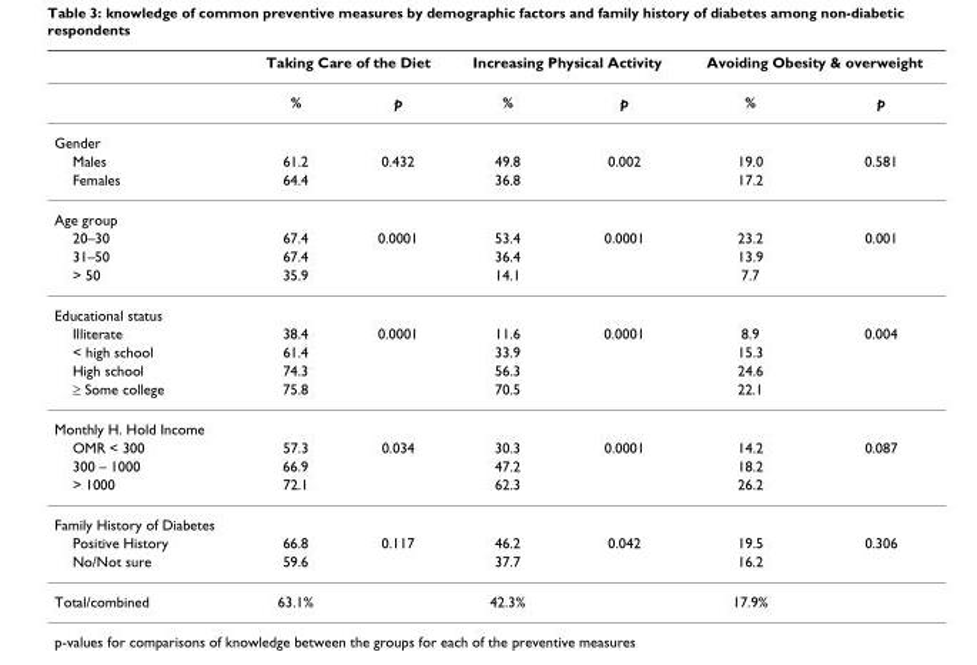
<table><thead><tr><td rowspan="2"></td><td colspan="2">Taking Care of the Diet</td><td colspan="2">Increasing Physical Activity</td><td colspan="2">Avoiding Obesity &amp; overweight</td></tr><tr><td>%</td><td>p</td><td>%</td><td>p</td><td>%</td><td>p</td></tr></thead><tbody><tr><td colspan="7">Gender</td></tr><tr><td>Males</td><td>61.2</td><td>0.432</td><td>49.8</td><td>0.002</td><td>19.0</td><td>0.581</td></tr><tr><td>Females</td><td>64.4</td><td></td><td>36.8</td><td></td><td>17.2</td><td></td></tr><tr><td colspan="7">Age group</td></tr><tr><td>20–30</td><td>67.4</td><td>0.0001</td><td>53.4</td><td>0.0001</td><td>23.2</td><td>0.001</td></tr><tr><td>31–50</td><td>67.4</td><td></td><td>36.4</td><td></td><td>13.9</td><td></td></tr><tr><td>&gt; 50</td><td>35.9</td><td></td><td>14.1</td><td></td><td>7.7</td><td></td></tr><tr><td colspan="7">Educational status</td></tr><tr><td>Illiterate</td><td>38.4</td><td>0.0001</td><td>11.6</td><td>0.0001</td><td>8.9</td><td>0.004</td></tr><tr><td>&lt; high school</td><td>61.4</td><td></td><td>33.9</td><td></td><td>15.3</td><td></td></tr><tr><td>High school</td><td>74.3</td><td></td><td>56.3</td><td></td><td>24.6</td><td></td></tr><tr><td>≥ Some college</td><td>75.8</td><td></td><td>70.5</td><td></td><td>22.1</td><td></td></tr><tr><td colspan="7">Monthly H. Hold Income</td></tr><tr><td>OMR &lt; 300</td><td>57.3</td><td>0.034</td><td>30.3</td><td>0.0001</td><td>14.2</td><td>0.087</td></tr><tr><td>300 – 1000</td><td>66.9</td><td></td><td>47.2</td><td></td><td>18.2</td><td></td></tr><tr><td>&gt; 1000</td><td>72.1</td><td></td><td>62.3</td><td></td><td>26.2</td><td></td></tr><tr><td colspan="7">Family History of Diabetes</td></tr><tr><td>Positive History</td><td>66.8</td><td>0.117</td><td>46.2</td><td>0.042</td><td>19.5</td><td>0.306</td></tr><tr><td>No/Not sure</td><td>59.6</td><td></td><td>37.7</td><td></td><td>16.2</td><td></td></tr><tr><td>Total/combined</td><td>63.1%</td><td></td><td>42.3%</td><td></td><td>17.9%</td><td></td></tr></tbody></table>